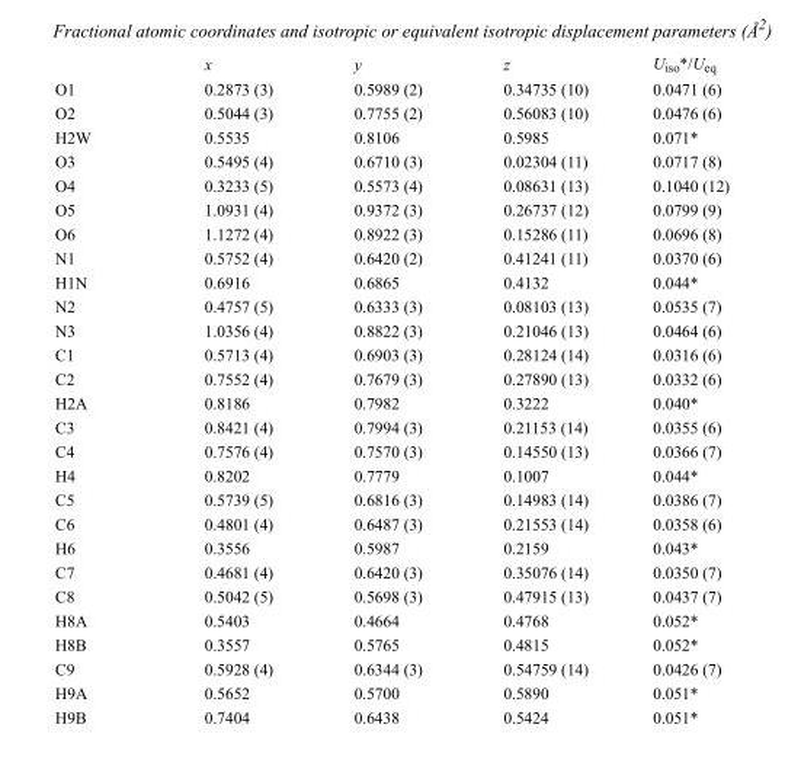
<table><thead><tr><td></td><td>x</td><td>y</td><td>z</td><td>U<sub>iso</sub>*/U<sub>eq</sub></td></tr></thead><tbody><tr><td>O1</td><td>0.2873 (3)</td><td>0.5989 (2)</td><td>0.34735 (10)</td><td>0.0471 (6)</td></tr><tr><td>O2</td><td>0.5044 (3)</td><td>0.7755 (2)</td><td>0.56083 (10)</td><td>0.0476 (6)</td></tr><tr><td>H2W</td><td>0.5535</td><td>0.8106</td><td>0.5985</td><td>0.071*</td></tr><tr><td>O3</td><td>0.5495 (4)</td><td>0.6710 (3)</td><td>0.02304 (11)</td><td>0.0717 (8)</td></tr><tr><td>O4</td><td>0.3233 (5)</td><td>0.5573 (4)</td><td>0.08631 (13)</td><td>0.1040 (12)</td></tr><tr><td>O5</td><td>1.0931 (4)</td><td>0.9372 (3)</td><td>0.26737 (12)</td><td>0.0799 (9)</td></tr><tr><td>O6</td><td>1.1272 (4)</td><td>0.8922 (3)</td><td>0.15286 (11)</td><td>0.0696 (8)</td></tr><tr><td>N1</td><td>0.5752 (4)</td><td>0.6420 (2)</td><td>0.41241 (11)</td><td>0.0370 (6)</td></tr><tr><td>H1N</td><td>0.6916</td><td>0.6865</td><td>0.4132</td><td>0.044*</td></tr><tr><td>N2</td><td>0.4757 (5)</td><td>0.6333 (3)</td><td>0.08103 (13)</td><td>0.0535 (7)</td></tr><tr><td>N3</td><td>1.0356 (4)</td><td>0.8822 (3)</td><td>0.21046 (13)</td><td>0.0464 (6)</td></tr><tr><td>C1</td><td>0.5713 (4)</td><td>0.6903 (3)</td><td>0.28124 (14)</td><td>0.0316 (6)</td></tr><tr><td>C2</td><td>0.7552 (4)</td><td>0.7679 (3)</td><td>0.27890 (13)</td><td>0.0332 (6)</td></tr><tr><td>H2A</td><td>0.8186</td><td>0.7982</td><td>0.3222</td><td>0.040*</td></tr><tr><td>C3</td><td>0.8421 (4)</td><td>0.7994 (3)</td><td>0.21153 (14)</td><td>0.0355 (6)</td></tr><tr><td>C4</td><td>0.7576 (4)</td><td>0.7570 (3)</td><td>0.14550 (13)</td><td>0.0366 (7)</td></tr><tr><td>H4</td><td>0.8202</td><td>0.7779</td><td>0.1007</td><td>0.044*</td></tr><tr><td>C5</td><td>0.5739 (5)</td><td>0.6816 (3)</td><td>0.14983 (14)</td><td>0.0386 (7)</td></tr><tr><td>C6</td><td>0.4801 (4)</td><td>0.6487 (3)</td><td>0.21553 (14)</td><td>0.0358 (6)</td></tr><tr><td>H6</td><td>0.3556</td><td>0.5987</td><td>0.2159</td><td>0.043*</td></tr><tr><td>C7</td><td>0.4681 (4)</td><td>0.6420 (3)</td><td>0.35076 (14)</td><td>0.0350 (7)</td></tr><tr><td>C8</td><td>0.5042 (5)</td><td>0.5698 (3)</td><td>0.47915 (13)</td><td>0.0437 (7)</td></tr><tr><td>H8A</td><td>0.5403</td><td>0.4664</td><td>0.4768</td><td>0.052*</td></tr><tr><td>H8B</td><td>0.3557</td><td>0.5765</td><td>0.4815</td><td>0.052*</td></tr><tr><td>C9</td><td>0.5928 (4)</td><td>0.6344 (3)</td><td>0.54759 (14)</td><td>0.0426 (7)</td></tr><tr><td>H9A</td><td>0.5652</td><td>0.5700</td><td>0.5890</td><td>0.051*</td></tr><tr><td>H9B</td><td>0.7404</td><td>0.6438</td><td>0.5424</td><td>0.051*</td></tr></tbody></table>